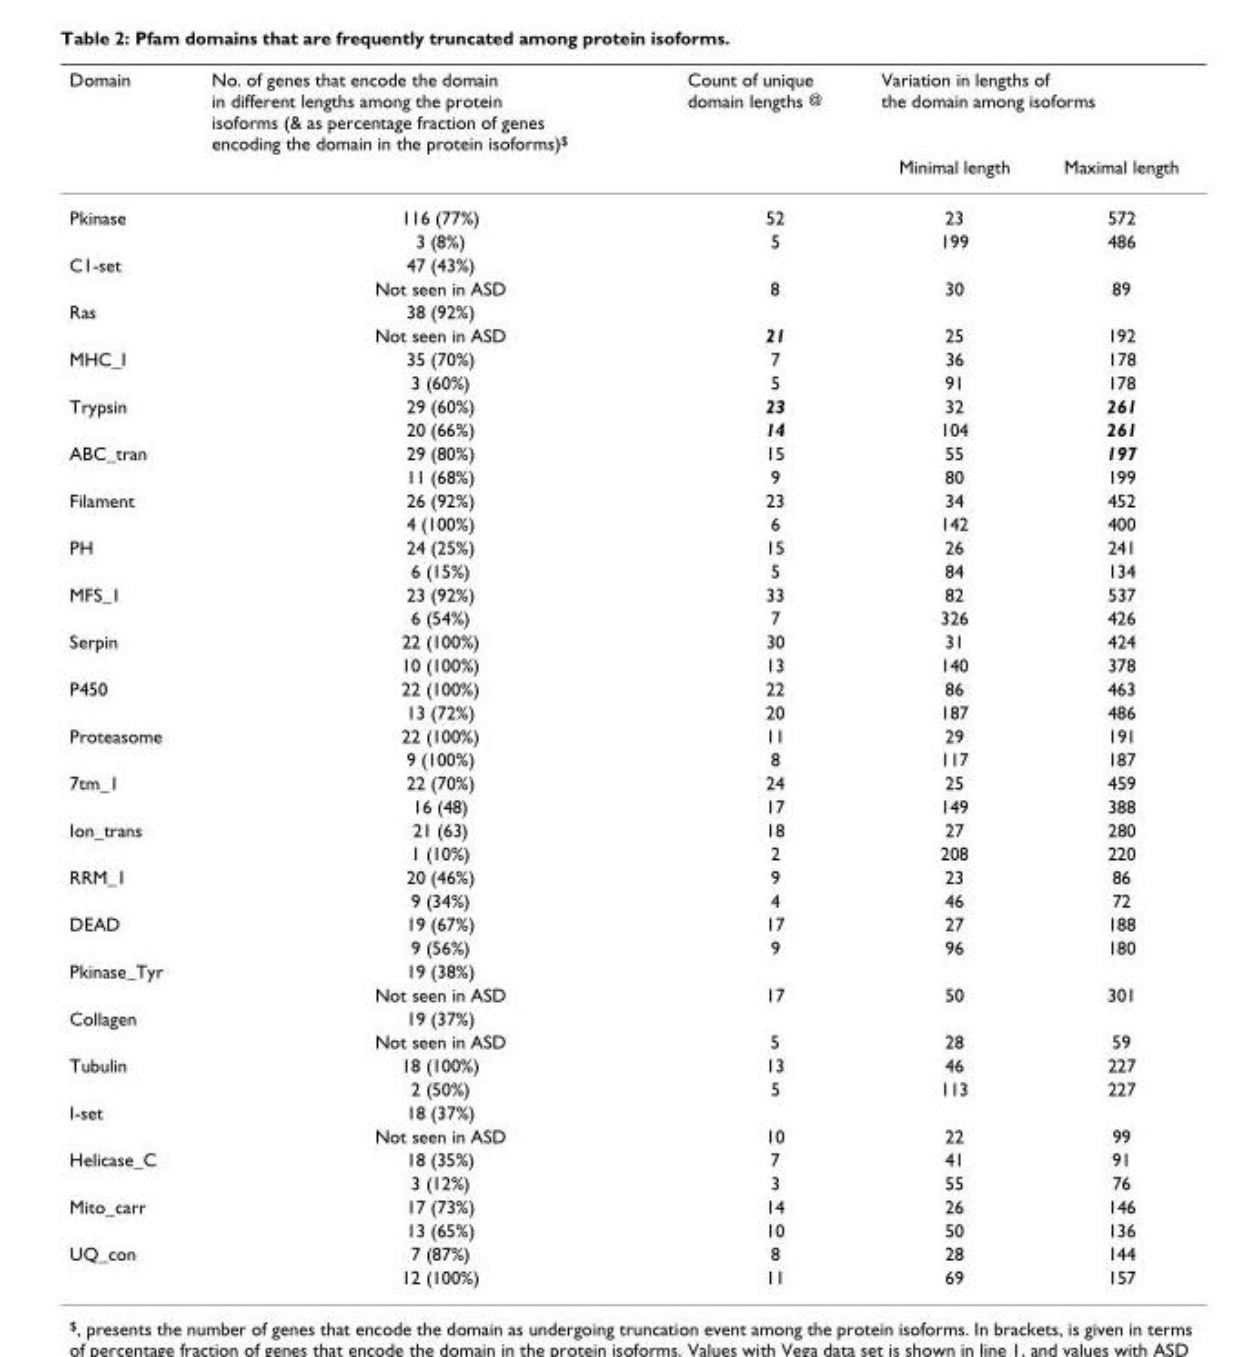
<table><thead><tr><td rowspan="2">Domain</td><td rowspan="2">No. of genes that encode the domain in different lengths among the protein isoforms (&amp; as percentage fraction of genes encoding the domain in the protein isoforms)<sup>$</sup></td><td rowspan="2">Count of unique domain lengths <sup>@</sup></td><td colspan="2">Variation in lengths of the domain among isoforms</td></tr><tr><td>Minimal length</td><td>Maximal length</td></tr></thead><tbody><tr><td rowspan="2">Pkinase</td><td>116 (77%)</td><td>52</td><td>23</td><td>572</td></tr><tr><td>3 (8%)</td><td>5</td><td>199</td><td>486</td></tr><tr><td rowspan="2">C1-set</td><td>47 (43%)</td><td></td><td></td><td></td></tr><tr><td>Not seen in ASD</td><td>8</td><td>30</td><td>89</td></tr><tr><td rowspan="2">Ras</td><td>38 (92%)</td><td></td><td></td><td></td></tr><tr><td>Not seen in ASD</td><td>21</td><td>25</td><td>192</td></tr><tr><td rowspan="2">MHC_I</td><td>35 (70%)</td><td>7</td><td>36</td><td>178</td></tr><tr><td>3 (60%)</td><td>5</td><td>91</td><td>178</td></tr><tr><td rowspan="2">Trypsin</td><td>29 (60%)</td><td>23</td><td>32</td><td>261</td></tr><tr><td>20 (66%)</td><td>14</td><td>104</td><td>261</td></tr><tr><td rowspan="2">ABC_tran</td><td>29 (80%)</td><td>15</td><td>55</td><td>197</td></tr><tr><td>11 (68%)</td><td>9</td><td>80</td><td>199</td></tr><tr><td rowspan="2">Filament</td><td>26 (92%)</td><td>23</td><td>34</td><td>452</td></tr><tr><td>4 (100%)</td><td>6</td><td>142</td><td>400</td></tr><tr><td rowspan="2">PH</td><td>24 (25%)</td><td>15</td><td>26</td><td>241</td></tr><tr><td>6 (15%)</td><td>5</td><td>84</td><td>134</td></tr><tr><td rowspan="2">MFS_1</td><td>23 (92%)</td><td>33</td><td>82</td><td>537</td></tr><tr><td>6 (54%)</td><td>7</td><td>326</td><td>426</td></tr><tr><td rowspan="2">Serpin</td><td>22 (100%)</td><td>30</td><td>31</td><td>424</td></tr><tr><td>10 (100%)</td><td>13</td><td>140</td><td>378</td></tr><tr><td rowspan="2">P450</td><td>22 (100%)</td><td>22</td><td>86</td><td>463</td></tr><tr><td>13 (72%)</td><td>20</td><td>187</td><td>486</td></tr><tr><td rowspan="2">Proteasome</td><td>22 (100%)</td><td>11</td><td>29</td><td>191</td></tr><tr><td>9 (100%)</td><td>8</td><td>117</td><td>187</td></tr><tr><td rowspan="2">7tm_1</td><td>22 (70%)</td><td>24</td><td>25</td><td>459</td></tr><tr><td>16 (48)</td><td>17</td><td>149</td><td>388</td></tr><tr><td rowspan="2">Ion_trans</td><td>21 (63)</td><td>18</td><td>27</td><td>280</td></tr><tr><td>1 (10%)</td><td>2</td><td>208</td><td>220</td></tr><tr><td rowspan="2">RRM_1</td><td>20 (46%)</td><td>9</td><td>23</td><td>86</td></tr><tr><td>9 (34%)</td><td>4</td><td>46</td><td>72</td></tr><tr><td rowspan="2">DEAD</td><td>19 (67%)</td><td>17</td><td>27</td><td>188</td></tr><tr><td>9 (56%)</td><td>9</td><td>96</td><td>180</td></tr><tr><td rowspan="2">Pkinase_Tyr</td><td>19 (38%)</td><td></td><td></td><td></td></tr><tr><td>Not seen in ASD</td><td>17</td><td>50</td><td>301</td></tr><tr><td rowspan="2">Collagen</td><td>19 (37%)</td><td></td><td></td><td></td></tr><tr><td>Not seen in ASD</td><td>5</td><td>28</td><td>59</td></tr><tr><td rowspan="2">Tubulin</td><td>18 (100%)</td><td>13</td><td>46</td><td>227</td></tr><tr><td>2 (50%)</td><td>5</td><td>113</td><td>227</td></tr><tr><td rowspan="2">I-set</td><td>18 (37%)</td><td></td><td></td><td></td></tr><tr><td>Not seen in ASD</td><td>10</td><td>22</td><td>99</td></tr><tr><td rowspan="2">Helicase_C</td><td>18 (35%)</td><td>7</td><td>41</td><td>91</td></tr><tr><td>3 (12%)</td><td>3</td><td>55</td><td>76</td></tr><tr><td rowspan="2">Mito_carr</td><td>17 (73%)</td><td>14</td><td>26</td><td>146</td></tr><tr><td>13 (65%)</td><td>10</td><td>50</td><td>136</td></tr><tr><td rowspan="2">UQ_con</td><td>7 (87%)</td><td>8</td><td>28</td><td>144</td></tr><tr><td>12 (100%)</td><td>11</td><td>69</td><td>157</td></tr></tbody></table>